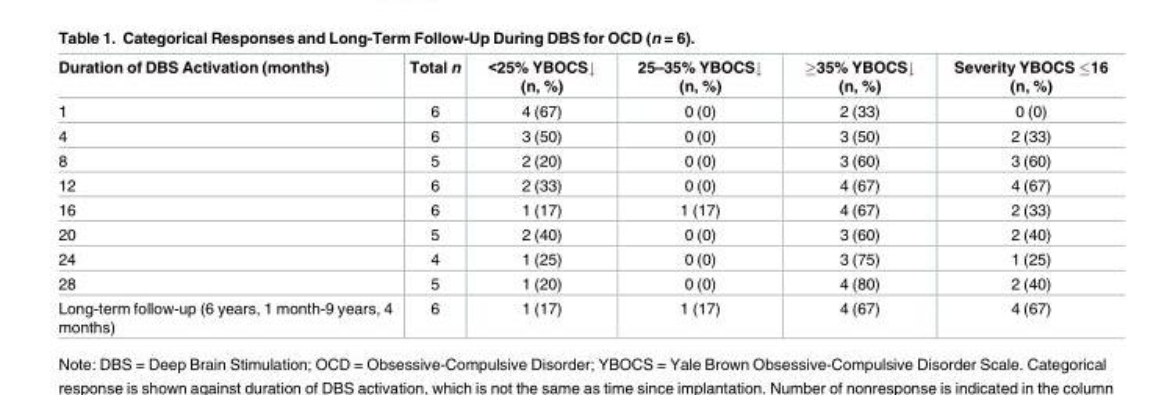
<table><thead><tr><td>Duration of DBS Activation (months)</td><td>Total n</td><td>&lt;25% YBOCS↓ (n, %)</td><td>25–35% YBOCS↓ (n, %)</td><td>≥35% YBOCS↓ (n, %)</td><td>Severity YBOCS ≤16 (n, %)</td></tr></thead><tbody><tr><td>1</td><td>6</td><td>4 (67)</td><td>0 (0)</td><td>2 (33)</td><td>0 (0)</td></tr><tr><td>4</td><td>6</td><td>3 (50)</td><td>0 (0)</td><td>3 (50)</td><td>2 (33)</td></tr><tr><td>8</td><td>5</td><td>2 (20)</td><td>0 (0)</td><td>3 (60)</td><td>3 (60)</td></tr><tr><td>12</td><td>6</td><td>2 (33)</td><td>0 (0)</td><td>4 (67)</td><td>4 (67)</td></tr><tr><td>16</td><td>6</td><td>1 (17)</td><td>1 (17)</td><td>4 (67)</td><td>2 (33)</td></tr><tr><td>20</td><td>5</td><td>2 (40)</td><td>0 (0)</td><td>3 (60)</td><td>2 (40)</td></tr><tr><td>24</td><td>4</td><td>1 (25)</td><td>0 (0)</td><td>3 (75)</td><td>1 (25)</td></tr><tr><td>28</td><td>5</td><td>1 (20)</td><td>0 (0)</td><td>4 (80)</td><td>2 (40)</td></tr><tr><td>Long-term follow-up (6 years, 1 month-9 years, 4 months)</td><td>6</td><td>1 (17)</td><td>1 (17)</td><td>4 (67)</td><td>4 (67)</td></tr></tbody></table>